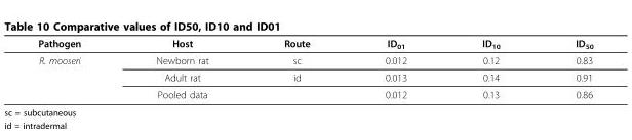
<table><thead><tr><td>Pathogen</td><td>Host</td><td>Route</td><td>ID<sub>01</sub></td><td>ID<sub>10</sub></td><td>ID<sub>50</sub></td></tr></thead><tbody><tr><td rowspan="3">R. mooseri</td><td>Newborn rat</td><td>sc</td><td>0.012</td><td>0.12</td><td>0.83</td></tr><tr><td>Adult rat</td><td>id</td><td>0.013</td><td>0.14</td><td>0.91</td></tr><tr><td>Pooled data</td><td></td><td>0.012</td><td>0.13</td><td>0.86</td></tr></tbody></table>